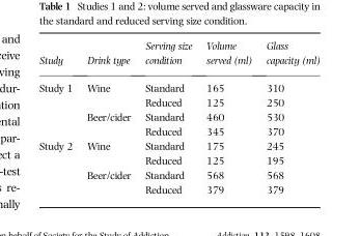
<table><thead><tr><td>Study</td><td>Drink type</td><td>Serving size condition</td><td>Volume served (ml)</td><td>Glass capacity (ml)</td></tr></thead><tbody><tr><td rowspan="4">Study 1</td><td rowspan="2">Wine</td><td>Standard</td><td>165</td><td>310</td></tr><tr><td>Reduced</td><td>125</td><td>250</td></tr><tr><td rowspan="2">Beer/cider</td><td>Standard</td><td>460</td><td>530</td></tr><tr><td>Reduced</td><td>345</td><td>370</td></tr><tr><td rowspan="4">Study 2</td><td rowspan="2">Wine</td><td>Standard</td><td>175</td><td>245</td></tr><tr><td>Reduced</td><td>125</td><td>195</td></tr><tr><td rowspan="2">Beer/cider</td><td>Standard</td><td>568</td><td>568</td></tr><tr><td>Reduced</td><td>379</td><td>379</td></tr></tbody></table>